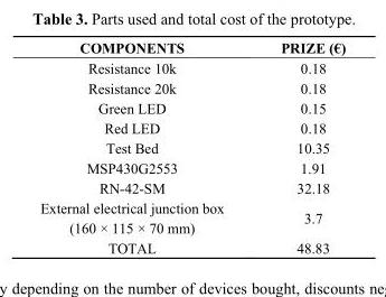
<table><thead><tr><td>COMPONENTS</td><td>PRIZE (€)</td></tr></thead><tbody><tr><td>Resistance 10k</td><td>0.18</td></tr><tr><td>Resistance 20k</td><td>0.18</td></tr><tr><td>Green LED</td><td>0.15</td></tr><tr><td>Red LED</td><td>0.18</td></tr><tr><td>Test Bed</td><td>10.35</td></tr><tr><td>MSP430G2553</td><td>1.91</td></tr><tr><td>RN-42-SM</td><td>32.18</td></tr><tr><td>External electrical junction box (160 × 115 × 70 mm)</td><td>3.7</td></tr><tr><td>TOTAL</td><td>48.83</td></tr></tbody></table>